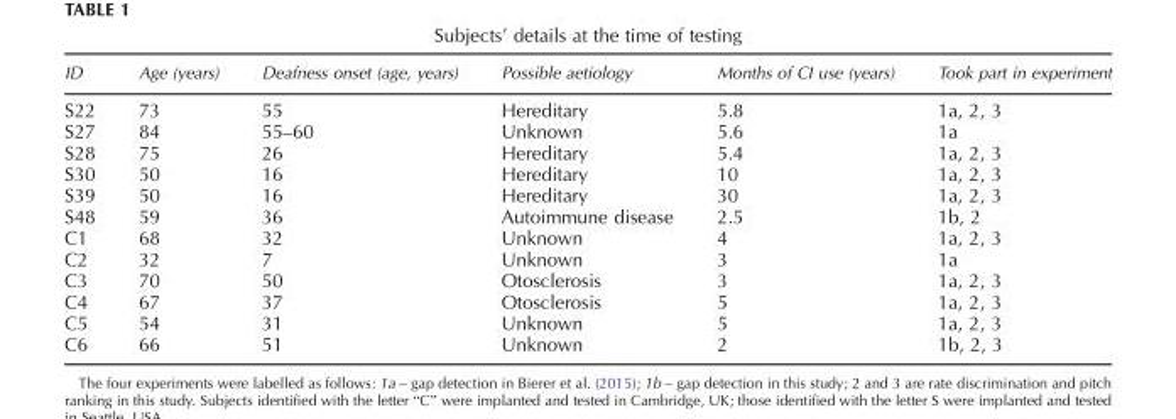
<table><thead><tr><td>ID</td><td>Age (years)</td><td>Deafness onset (age, years)</td><td>Possible aetiology</td><td>Months of CI use (years)</td><td>Took part in experiment</td></tr></thead><tbody><tr><td>S22</td><td>73</td><td>55</td><td>Hereditary</td><td>5.8</td><td>1a, 2, 3</td></tr><tr><td>S27</td><td>84</td><td>55–60</td><td>Unknown</td><td>5.6</td><td>1a</td></tr><tr><td>S28</td><td>75</td><td>26</td><td>Hereditary</td><td>5.4</td><td>1a, 2, 3</td></tr><tr><td>S30</td><td>50</td><td>16</td><td>Hereditary</td><td>10</td><td>1a, 2, 3</td></tr><tr><td>S39</td><td>50</td><td>16</td><td>Hereditary</td><td>30</td><td>1a, 2, 3</td></tr><tr><td>S48</td><td>59</td><td>36</td><td>Autoimmune disease</td><td>2.5</td><td>1b, 2</td></tr><tr><td>C1</td><td>68</td><td>32</td><td>Unknown</td><td>4</td><td>1a, 2, 3</td></tr><tr><td>C2</td><td>32</td><td>7</td><td>Unknown</td><td>3</td><td>1a</td></tr><tr><td>C3</td><td>70</td><td>50</td><td>Otosclerosis</td><td>3</td><td>1a, 2, 3</td></tr><tr><td>C4</td><td>67</td><td>37</td><td>Otosclerosis</td><td>5</td><td>1a, 2, 3</td></tr><tr><td>C5</td><td>54</td><td>31</td><td>Unknown</td><td>5</td><td>1a, 2, 3</td></tr><tr><td>C6</td><td>66</td><td>51</td><td>Unknown</td><td>2</td><td>1b, 2, 3</td></tr></tbody></table>